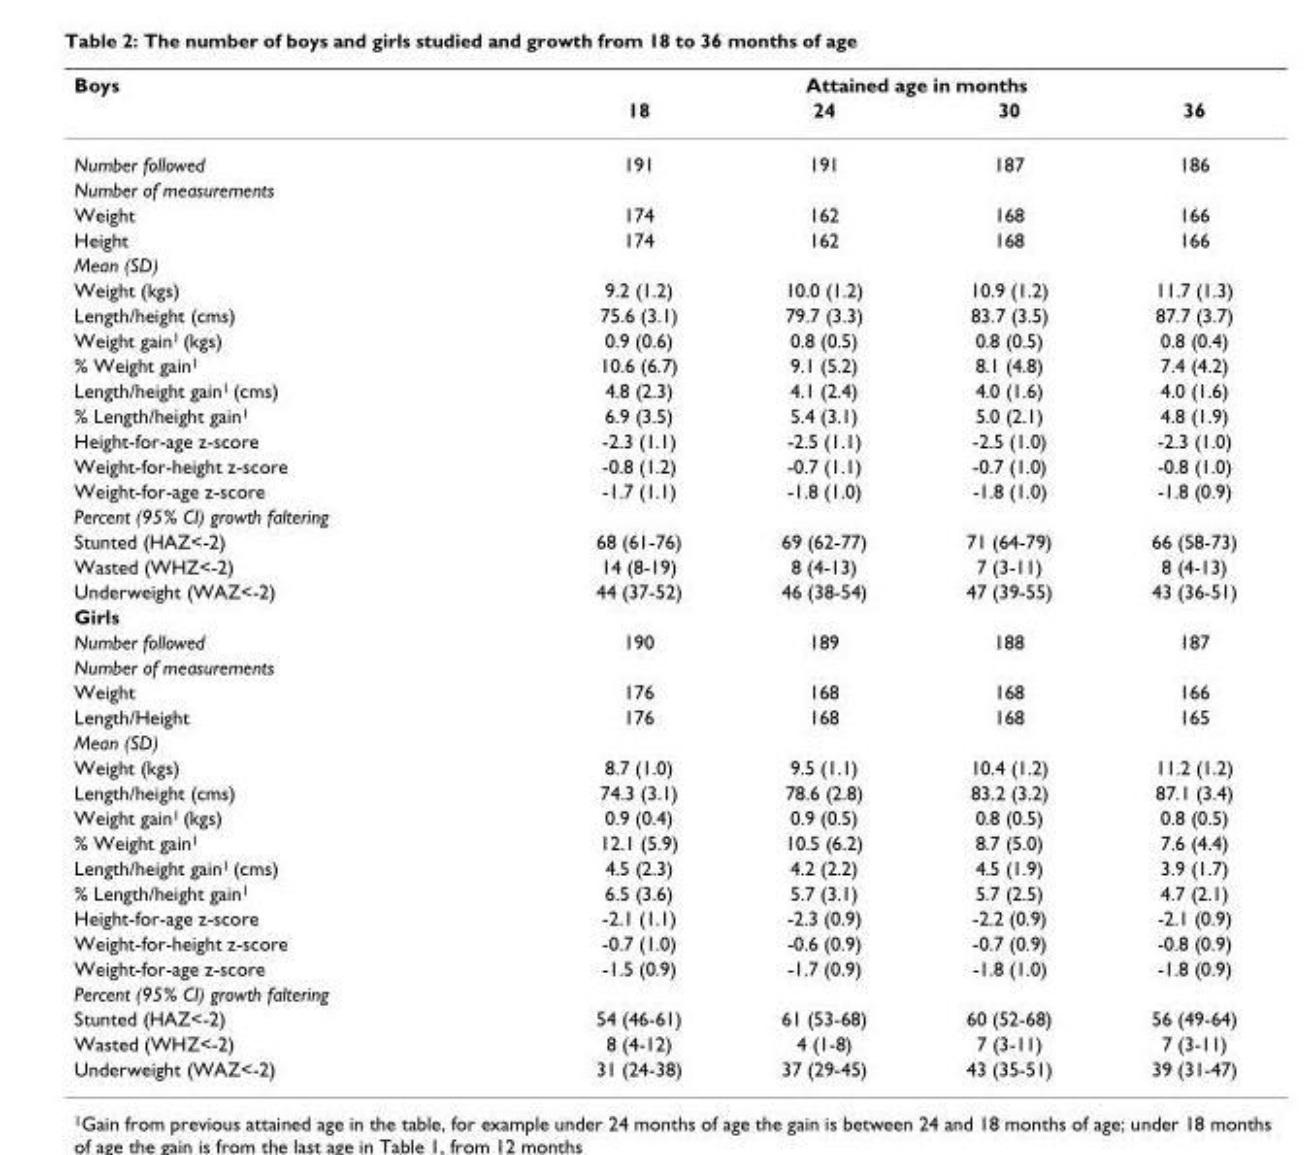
<table><thead><tr><td rowspan="2">Boys</td><td colspan="4">Attained age in months</td></tr><tr><td>18</td><td>24</td><td>30</td><td>36</td></tr></thead><tbody><tr><td>Number followed</td><td>191</td><td>191</td><td>187</td><td>186</td></tr><tr><td colspan="5">Number of measurements</td></tr><tr><td>Weight</td><td>174</td><td>162</td><td>168</td><td>166</td></tr><tr><td>Height</td><td>174</td><td>162</td><td>168</td><td>166</td></tr><tr><td colspan="5">Mean (SD)</td></tr><tr><td>Weight (kgs)</td><td>9.2 (1.2)</td><td>10.0 (1.2)</td><td>10.9 (1.2)</td><td>11.7 (1.3)</td></tr><tr><td>Length/height (cms)</td><td>75.6 (3.1)</td><td>79.7 (3.3)</td><td>83.7 (3.5)</td><td>87.7 (3.7)</td></tr><tr><td>Weight gain<sup>1</sup> (kgs)</td><td>0.9 (0.6)</td><td>0.8 (0.5)</td><td>0.8 (0.5)</td><td>0.8 (0.4)</td></tr><tr><td>% Weight gain<sup>1</sup></td><td>10.6 (6.7)</td><td>9.1 (5.2)</td><td>8.1 (4.8)</td><td>7.4 (4.2)</td></tr><tr><td>Length/height gain<sup>1</sup> (cms)</td><td>4.8 (2.3)</td><td>4.1 (2.4)</td><td>4.0 (1.6)</td><td>4.0 (1.6)</td></tr><tr><td>% Length/height gain<sup>1</sup></td><td>6.9 (3.5)</td><td>5.4 (3.1)</td><td>5.0 (2.1)</td><td>4.8 (1.9)</td></tr><tr><td>Height-for-age z-score</td><td>-2.3 (1.1)</td><td>-2.5 (1.1)</td><td>-2.5 (1.0)</td><td>-2.3 (1.0)</td></tr><tr><td>Weight-for-height z-score</td><td>-0.8 (1.2)</td><td>-0.7 (1.1)</td><td>-0.7 (1.0)</td><td>-0.8 (1.0)</td></tr><tr><td>Weight-for-age z-score</td><td>-1.7 (1.1)</td><td>-1.8 (1.0)</td><td>-1.8 (1.0)</td><td>-1.8 (0.9)</td></tr><tr><td colspan="5">Percent (95% CI) growth faltering</td></tr><tr><td>Stunted (HAZ&lt;-2)</td><td>68 (61-76)</td><td>69 (62-77)</td><td>71 (64-79)</td><td>66 (58-73)</td></tr><tr><td>Wasted (WHZ&lt;-2)</td><td>14 (8-19)</td><td>8 (4-13)</td><td>7 (3-11)</td><td>8 (4-13)</td></tr><tr><td>Underweight (WAZ&lt;-2)</td><td>44 (37-52)</td><td>46 (38-54)</td><td>47 (39-55)</td><td>43 (36-51)</td></tr><tr><td colspan="5">Girls</td></tr><tr><td>Number followed</td><td>190</td><td>189</td><td>188</td><td>187</td></tr><tr><td colspan="5">Number of measurements</td></tr><tr><td>Weight</td><td>176</td><td>168</td><td>168</td><td>166</td></tr><tr><td>Length/Height</td><td>176</td><td>168</td><td>168</td><td>165</td></tr><tr><td colspan="5">Mean (SD)</td></tr><tr><td>Weight (kgs)</td><td>8.7 (1.0)</td><td>9.5 (1.1)</td><td>10.4 (1.2)</td><td>11.2 (1.2)</td></tr><tr><td>Length/height (cms)</td><td>74.3 (3.1)</td><td>78.6 (2.8)</td><td>83.2 (3.2)</td><td>87.1 (3.4)</td></tr><tr><td>Weight gain<sup>1</sup> (kgs)</td><td>0.9 (0.4)</td><td>0.9 (0.5)</td><td>0.8 (0.5)</td><td>0.8 (0.5)</td></tr><tr><td>% Weight gain<sup>1</sup></td><td>12.1 (5.9)</td><td>10.5 (6.2)</td><td>8.7 (5.0)</td><td>7.6 (4.4)</td></tr><tr><td>Length/height gain<sup>1</sup> (cms)</td><td>4.5 (2.3)</td><td>4.2 (2.2)</td><td>4.5 (1.9)</td><td>3.9 (1.7)</td></tr><tr><td>% Length/height gain<sup>1</sup></td><td>6.5 (3.6)</td><td>5.7 (3.1)</td><td>5.7 (2.5)</td><td>4.7 (2.1)</td></tr><tr><td>Height-for-age z-score</td><td>-2.1 (1.1)</td><td>-2.3 (0.9)</td><td>-2.2 (0.9)</td><td>-2.1 (0.9)</td></tr><tr><td>Weight-for-height z-score</td><td>-0.7 (1.0)</td><td>-0.6 (0.9)</td><td>-0.7 (0.9)</td><td>-0.8 (0.9)</td></tr><tr><td>Weight-for-age z-score</td><td>-1.5 (0.9)</td><td>-1.7 (0.9)</td><td>-1.8 (1.0)</td><td>-1.8 (0.9)</td></tr><tr><td colspan="5">Percent (95% CI) growth faltering</td></tr><tr><td>Stunted (HAZ&lt;-2)</td><td>54 (46-61)</td><td>61 (53-68)</td><td>60 (52-68)</td><td>56 (49-64)</td></tr><tr><td>Wasted (WHZ&lt;-2)</td><td>8 (4-12)</td><td>4 (1-8)</td><td>7 (3-11)</td><td>7 (3-11)</td></tr><tr><td>Underweight (WAZ&lt;-2)</td><td>31 (24-38)</td><td>37 (29-45)</td><td>43 (35-51)</td><td>39 (31-47)</td></tr></tbody></table>